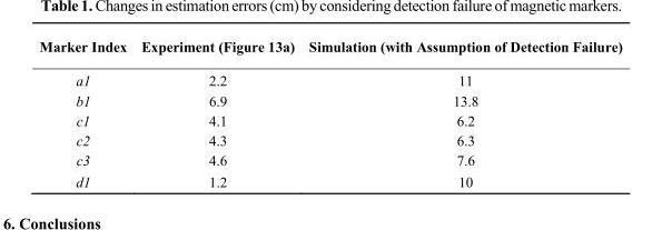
<table><thead><tr><td>Marker Index</td><td>Experiment (Figure 13a)</td><td>Simulation (with Assumption of Detection Failure)</td></tr></thead><tbody><tr><td>a1</td><td>2.2</td><td>11</td></tr><tr><td>b1</td><td>6.9</td><td>13.8</td></tr><tr><td>c1</td><td>4.1</td><td>6.2</td></tr><tr><td>c2</td><td>4.3</td><td>6.3</td></tr><tr><td>c3</td><td>4.6</td><td>7.6</td></tr><tr><td>d1</td><td>1.2</td><td>10</td></tr></tbody></table>